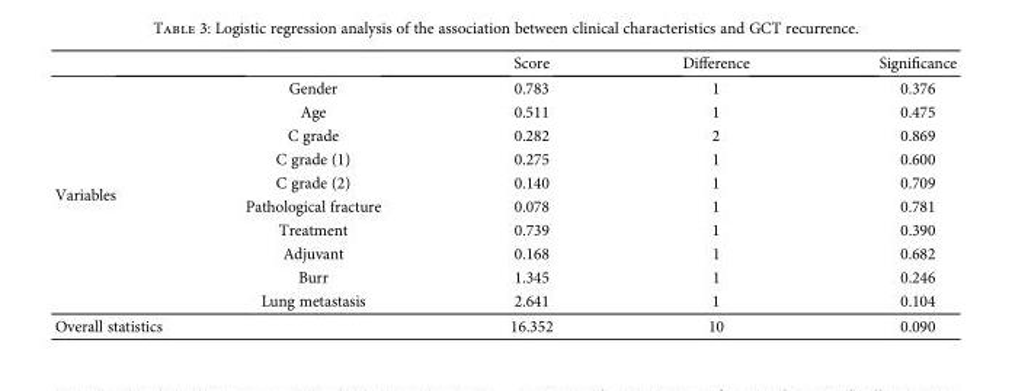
<table><thead><tr><td></td><td></td><td>Score</td><td>Difference</td><td>Significance</td></tr></thead><tbody><tr><td rowspan="10">Variables</td><td>Gender</td><td>0.783</td><td>1</td><td>0.376</td></tr><tr><td>Age</td><td>0.511</td><td>1</td><td>0.475</td></tr><tr><td>C grade</td><td>0.282</td><td>2</td><td>0.869</td></tr><tr><td>C grade (1)</td><td>0.275</td><td>1</td><td>0.600</td></tr><tr><td>C grade (2)</td><td>0.140</td><td>1</td><td>0.709</td></tr><tr><td>Pathological fracture</td><td>0.078</td><td>1</td><td>0.781</td></tr><tr><td>Treatment</td><td>0.739</td><td>1</td><td>0.390</td></tr><tr><td>Adjuvant</td><td>0.168</td><td>1</td><td>0.682</td></tr><tr><td>Burr</td><td>1.345</td><td>1</td><td>0.246</td></tr><tr><td>Lung metastasis</td><td>2.641</td><td>1</td><td>0.104</td></tr><tr><td colspan="2">Overall statistics</td><td>16.352</td><td>10</td><td>0.090</td></tr></tbody></table>